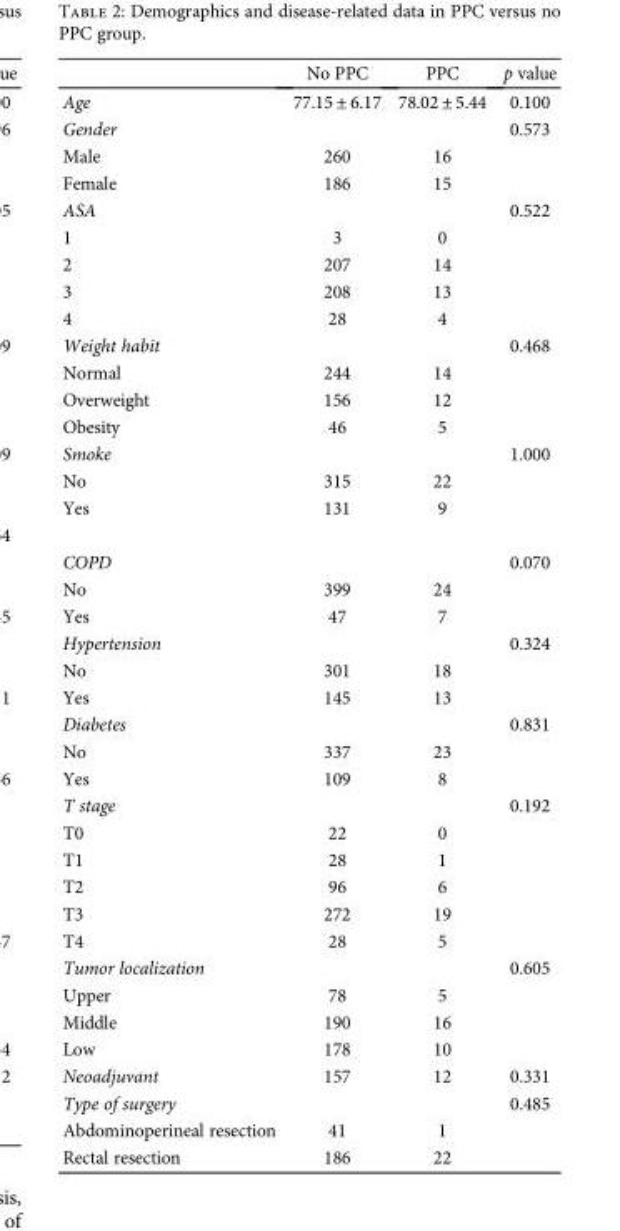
<table><thead><tr><td></td><td>No PPC</td><td>PPC</td><td>p value</td></tr></thead><tbody><tr><td>Age</td><td>77.15 ± 6.17</td><td>78.02 ± 5.44</td><td>0.100</td></tr><tr><td>Gender</td><td></td><td></td><td>0.573</td></tr><tr><td>Male</td><td>260</td><td>16</td><td></td></tr><tr><td>Female</td><td>186</td><td>15</td><td></td></tr><tr><td>ASA</td><td></td><td></td><td>0.522</td></tr><tr><td>1</td><td>3</td><td>0</td><td></td></tr><tr><td>2</td><td>207</td><td>14</td><td></td></tr><tr><td>3</td><td>208</td><td>13</td><td></td></tr><tr><td>4</td><td>28</td><td>4</td><td></td></tr><tr><td>Weight habit</td><td></td><td></td><td>0.468</td></tr><tr><td>Normal</td><td>244</td><td>14</td><td></td></tr><tr><td>Overweight</td><td>156</td><td>12</td><td></td></tr><tr><td>Obesity</td><td>46</td><td>5</td><td></td></tr><tr><td>Smoke</td><td></td><td></td><td>1.000</td></tr><tr><td>No</td><td>315</td><td>22</td><td></td></tr><tr><td>Yes</td><td>131</td><td>9</td><td></td></tr><tr><td>COPD</td><td></td><td></td><td>0.070</td></tr><tr><td>No</td><td>399</td><td>24</td><td></td></tr><tr><td>Yes</td><td>47</td><td>7</td><td></td></tr><tr><td>Hypertension</td><td></td><td></td><td>0.324</td></tr><tr><td>No</td><td>301</td><td>18</td><td></td></tr><tr><td>Yes</td><td>145</td><td>13</td><td></td></tr><tr><td>Diabetes</td><td></td><td></td><td>0.831</td></tr><tr><td>No</td><td>337</td><td>23</td><td></td></tr><tr><td>Yes</td><td>109</td><td>8</td><td></td></tr><tr><td>T stage</td><td></td><td></td><td>0.192</td></tr><tr><td>T0</td><td>22</td><td>0</td><td></td></tr><tr><td>T1</td><td>28</td><td>1</td><td></td></tr><tr><td>T2</td><td>96</td><td>6</td><td></td></tr><tr><td>T3</td><td>272</td><td>19</td><td></td></tr><tr><td>T4</td><td>28</td><td>5</td><td></td></tr><tr><td>Tumor localization</td><td></td><td></td><td>0.605</td></tr><tr><td>Upper</td><td>78</td><td>5</td><td></td></tr><tr><td>Middle</td><td>190</td><td>16</td><td></td></tr><tr><td>Low</td><td>178</td><td>10</td><td></td></tr><tr><td>Neoadjuvant</td><td>157</td><td>12</td><td>0.331</td></tr><tr><td>Type of surgery</td><td></td><td></td><td>0.485</td></tr><tr><td>Abdominoperineal resection</td><td>41</td><td>1</td><td></td></tr><tr><td>Rectal resection</td><td>186</td><td>22</td><td></td></tr></tbody></table>